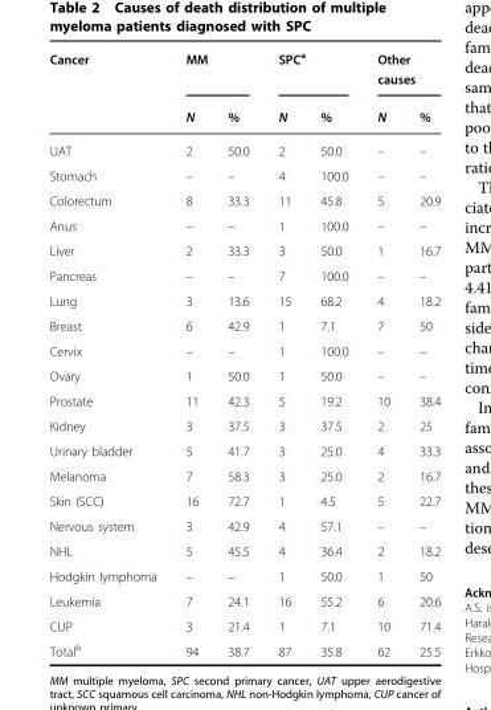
<table><thead><tr><td rowspan="2">Cancer</td><td colspan="2">MM</td><td colspan="2">SPC<sup>a</sup></td><td colspan="2">Other causes</td></tr><tr><td>N</td><td>%</td><td>N</td><td>%</td><td>N</td><td>%</td></tr></thead><tbody><tr><td>UAT</td><td>2</td><td>50.0</td><td>2</td><td>50.0</td><td>–</td><td>–</td></tr><tr><td>Stomach</td><td>–</td><td>–</td><td>4</td><td>100.0</td><td>–</td><td>–</td></tr><tr><td>Colorectum</td><td>8</td><td>33.3</td><td>11</td><td>45.8</td><td>5</td><td>20.9</td></tr><tr><td>Anus</td><td>–</td><td>–</td><td>1</td><td>100.0</td><td>–</td><td>–</td></tr><tr><td>Liver</td><td>2</td><td>33.3</td><td>3</td><td>50.0</td><td>1</td><td>16.7</td></tr><tr><td>Pancreas</td><td>–</td><td>–</td><td>7</td><td>100.0</td><td>–</td><td>–</td></tr><tr><td>Lung</td><td>3</td><td>13.6</td><td>15</td><td>68.2</td><td>4</td><td>18.2</td></tr><tr><td>Breast</td><td>6</td><td>42.9</td><td>1</td><td>7.1</td><td>7</td><td>50</td></tr><tr><td>Cervix</td><td>–</td><td>–</td><td>1</td><td>100.0</td><td>–</td><td>–</td></tr><tr><td>Ovary</td><td>1</td><td>50.0</td><td>1</td><td>50.0</td><td>–</td><td>–</td></tr><tr><td>Prostate</td><td>11</td><td>42.3</td><td>5</td><td>19.2</td><td>10</td><td>38.4</td></tr><tr><td>Kidney</td><td>3</td><td>37.5</td><td>3</td><td>37.5</td><td>2</td><td>25</td></tr><tr><td>Urinary bladder</td><td>5</td><td>41.7</td><td>3</td><td>25.0</td><td>4</td><td>33.3</td></tr><tr><td>Melanoma</td><td>7</td><td>58.3</td><td>3</td><td>25.0</td><td>2</td><td>16.7</td></tr><tr><td>Skin (SCC)</td><td>16</td><td>72.7</td><td>1</td><td>4.5</td><td>5</td><td>22.7</td></tr><tr><td>Nervous system</td><td>3</td><td>42.9</td><td>4</td><td>57.1</td><td>–</td><td>–</td></tr><tr><td>NHL</td><td>5</td><td>45.5</td><td>4</td><td>36.4</td><td>2</td><td>18.2</td></tr><tr><td>Hodgkin lymphoma</td><td>–</td><td>–</td><td>1</td><td>50.0</td><td>1</td><td>50</td></tr><tr><td>Leukemia</td><td>7</td><td>24.1</td><td>16</td><td>55.2</td><td>6</td><td>20.6</td></tr><tr><td>CUP</td><td>3</td><td>21.4</td><td>1</td><td>7.1</td><td>10</td><td>71.4</td></tr><tr><td>Total<sup>b</sup></td><td>94</td><td>38.7</td><td>87</td><td>35.8</td><td>62</td><td>25.5</td></tr></tbody></table>